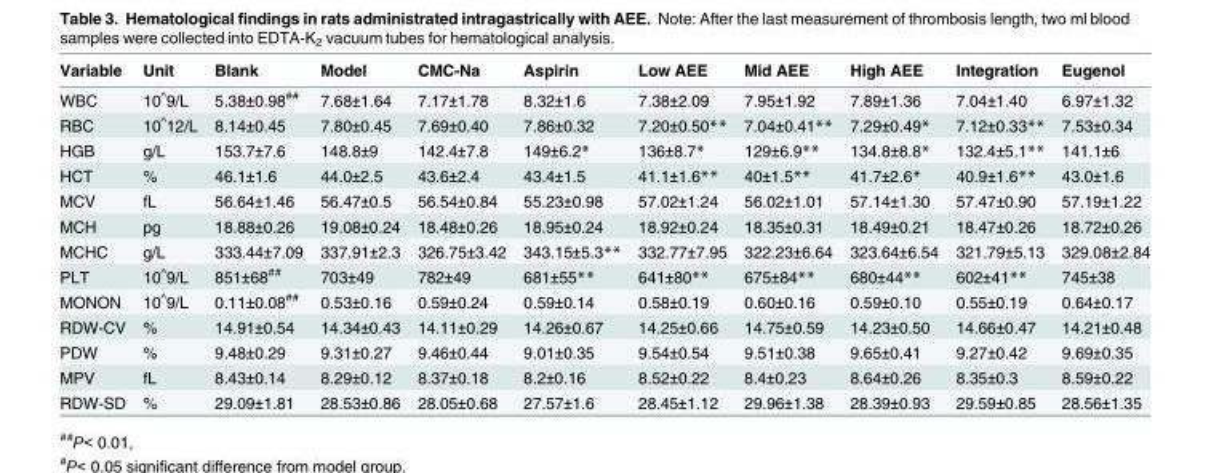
<table><thead><tr><td>Variable</td><td>Unit</td><td>Blank</td><td>Model</td><td>CMC-Na</td><td>Aspirin</td><td>Low AEE</td><td>Mid AEE</td><td>High AEE</td><td>Integration</td><td>Eugenol</td></tr></thead><tbody><tr><td>WBC</td><td>10<sup>^</sup>9/L</td><td>5.38±0.98<sup>##</sup></td><td>7.68±1.64</td><td>7.17±1.78</td><td>8.32±1.6</td><td>7.38±2.09</td><td>7.95±1.92</td><td>7.89±1.36</td><td>7.04±1.40</td><td>6.97±1.32</td></tr><tr><td>RBC</td><td>10<sup>^</sup>12/L</td><td>8.14±0.45</td><td>7.80±0.45</td><td>7.69±0.40</td><td>7.86±0.32</td><td>7.20±0.50**</td><td>7.04±0.41**</td><td>7.29±0.49*</td><td>7.12±0.33**</td><td>7.53±0.34</td></tr><tr><td>HGB</td><td>g/L</td><td>153.7±7.6</td><td>148.8±9</td><td>142.4±7.8</td><td>149±6.2*</td><td>136±8.7*</td><td>129±6.9**</td><td>134.8±8.8*</td><td>132.4±5.1**</td><td>141.1±6</td></tr><tr><td>HCT</td><td>%</td><td>46.1±1.6</td><td>44.0±2.5</td><td>43.6±2.4</td><td>43.4±1.5</td><td>41.1±1.6**</td><td>40±1.5**</td><td>41.7±2.6*</td><td>40.9±1.6**</td><td>43.0±1.6</td></tr><tr><td>MCV</td><td>fL</td><td>56.64±1.46</td><td>56.47±0.5</td><td>56.54±0.84</td><td>55.23±0.98</td><td>57.02±1.24</td><td>56.02±1.01</td><td>57.14±1.30</td><td>57.47±0.90</td><td>57.19±1.22</td></tr><tr><td>MCH</td><td>pg</td><td>18.88±0.26</td><td>19.08±0.24</td><td>18.48±0.26</td><td>18.95±0.24</td><td>18.92±0.24</td><td>18.35±0.31</td><td>18.49±0.21</td><td>18.47±0.26</td><td>18.72±0.26</td></tr><tr><td>MCHC</td><td>g/L</td><td>333.44±7.09</td><td>337.91±2.3</td><td>326.75±3.42</td><td>343.15±5.3**</td><td>332.77±7.95</td><td>322.23±6.64</td><td>323.64±6.54</td><td>321.79±5.13</td><td>329.08±2.84</td></tr><tr><td>PLT</td><td>10<sup>^</sup>9/L</td><td>851±68<sup>##</sup></td><td>703±49</td><td>782±49</td><td>681±55**</td><td>641±80**</td><td>675±84**</td><td>680±44**</td><td>602±41**</td><td>745±38</td></tr><tr><td>MONON</td><td>10<sup>^</sup>9/L</td><td>0.11±0.08<sup>##</sup></td><td>0.53±0.16</td><td>0.59±0.24</td><td>0.59±0.14</td><td>0.58±0.19</td><td>0.60±0.16</td><td>0.59±0.10</td><td>0.55±0.19</td><td>0.64±0.17</td></tr><tr><td>RDW-CV</td><td>%</td><td>14.91±0.54</td><td>14.34±0.43</td><td>14.11±0.29</td><td>14.26±0.67</td><td>14.25±0.66</td><td>14.75±0.59</td><td>14.23±0.50</td><td>14.66±0.47</td><td>14.21±0.48</td></tr><tr><td>PDW</td><td>%</td><td>9.48±0.29</td><td>9.31±0.27</td><td>9.46±0.44</td><td>9.01±0.35</td><td>9.54±0.54</td><td>9.51±0.38</td><td>9.65±0.41</td><td>9.27±0.42</td><td>9.69±0.35</td></tr><tr><td>MPV</td><td>fL</td><td>8.43±0.14</td><td>8.29±0.12</td><td>8.37±0.18</td><td>8.2±0.16</td><td>8.52±0.22</td><td>8.4±0.23</td><td>8.64±0.26</td><td>8.35±0.3</td><td>8.59±0.22</td></tr><tr><td>RDW-SD</td><td>%</td><td>29.09±1.81</td><td>28.53±0.86</td><td>28.05±0.68</td><td>27.57±1.6</td><td>28.45±1.12</td><td>29.96±1.38</td><td>28.39±0.93</td><td>29.59±0.85</td><td>28.56±1.35</td></tr></tbody></table>